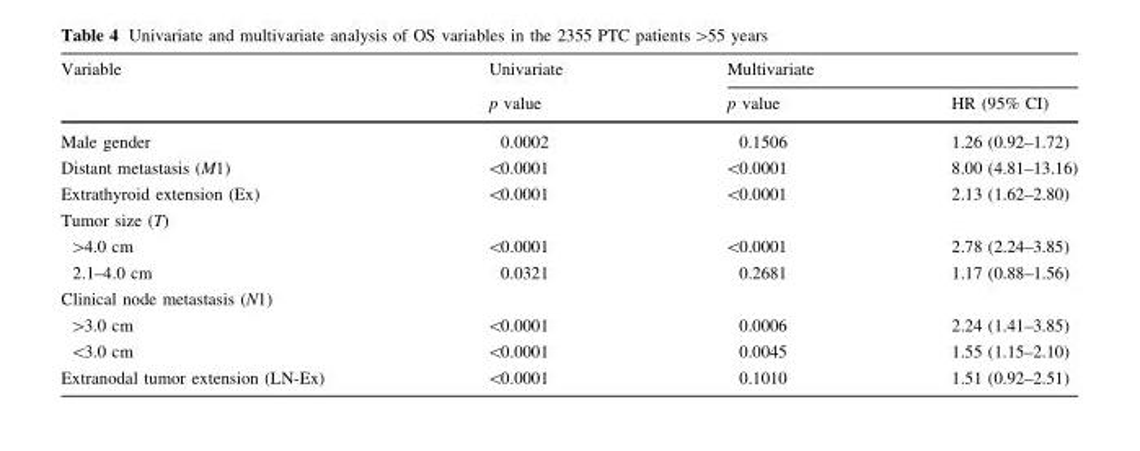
<table><thead><tr><td rowspan="2">Variable</td><td rowspan="2">Univariate p value</td><td colspan="2">Multivariate</td></tr><tr><td>p value</td><td>HR (95% CI)</td></tr></thead><tbody><tr><td>Male gender</td><td>0.0002</td><td>0.1506</td><td>1.26 (0.92–1.72)</td></tr><tr><td>Distant metastasis (M1)</td><td>&lt;0.0001</td><td>&lt;0.0001</td><td>8.00 (4.81–13.16)</td></tr><tr><td>Extrathyroid extension (Ex)</td><td>&lt;0.0001</td><td>&lt;0.0001</td><td>2.13 (1.62–2.80)</td></tr><tr><td colspan="4">Tumor size (T)</td></tr><tr><td>&gt;4.0 cm</td><td>&lt;0.0001</td><td>&lt;0.0001</td><td>2.78 (2.24–3.85)</td></tr><tr><td>2.1–4.0 cm</td><td>0.0321</td><td>0.2681</td><td>1.17 (0.88–1.56)</td></tr><tr><td colspan="4">Clinical node metastasis (N1)</td></tr><tr><td>&gt;3.0 cm</td><td>&lt;0.0001</td><td>0.0006</td><td>2.24 (1.41–3.85)</td></tr><tr><td>&lt;3.0 cm</td><td>&lt;0.0001</td><td>0.0045</td><td>1.55 (1.15–2.10)</td></tr><tr><td>Extranodal tumor extension (LN-Ex)</td><td>&lt;0.0001</td><td>0.1010</td><td>1.51 (0.92–2.51)</td></tr></tbody></table>